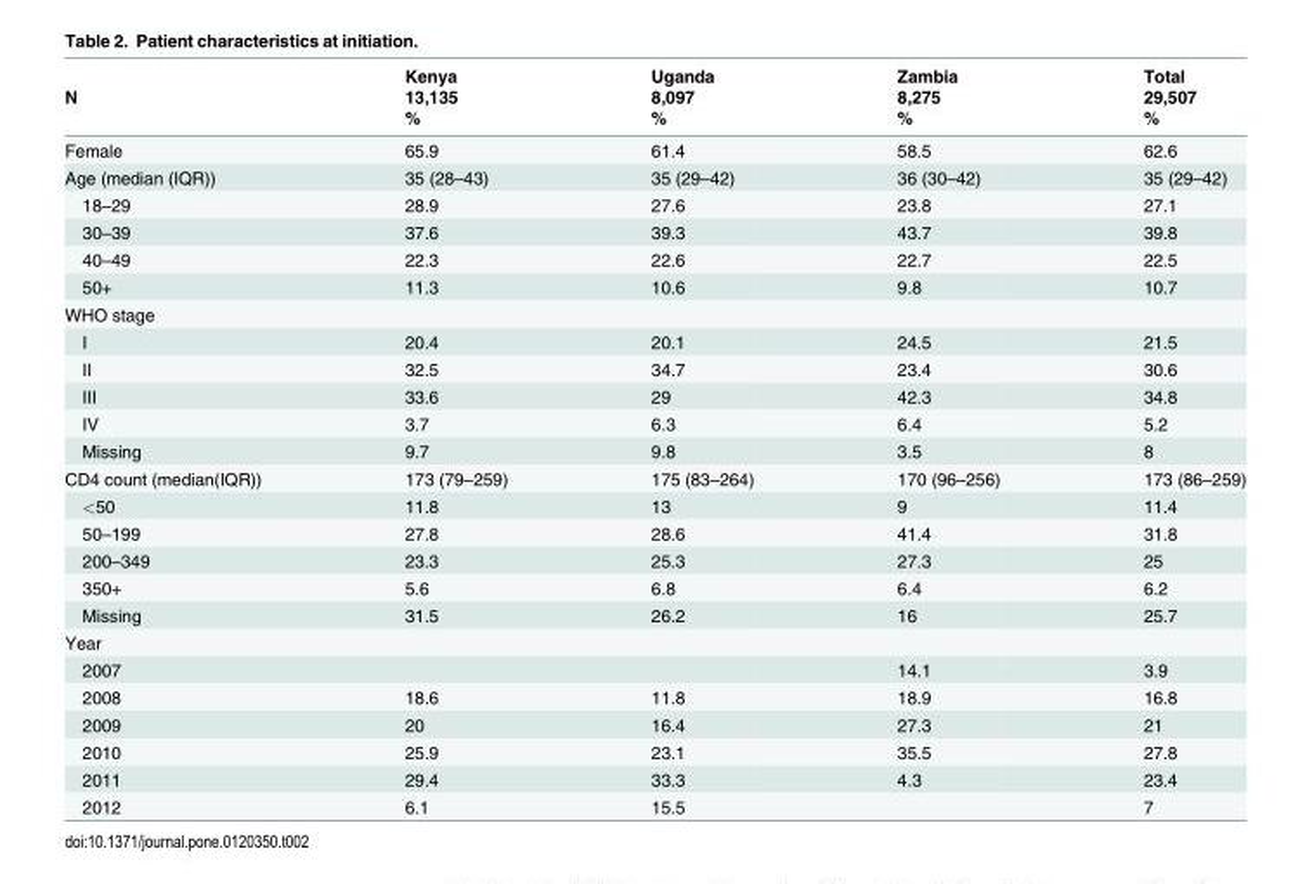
<table><thead><tr><td rowspan="3">N</td><td rowspan="3">Kenya 13,135 %</td><td rowspan="3">Uganda 8,097 %</td><td rowspan="3">Zambia 8,275 %</td><td rowspan="3">Total 29,507 %</td></tr><tr></tr><tr></tr></thead><tbody><tr><td>Female</td><td>65.9</td><td>61.4</td><td>58.5</td><td>62.6</td></tr><tr><td>Age (median (IQR))</td><td>35 (28–43)</td><td>35 (29–42)</td><td>36 (30–42)</td><td>35 (29–42)</td></tr><tr><td>18–29</td><td>28.9</td><td>27.6</td><td>23.8</td><td>27.1</td></tr><tr><td>30–39</td><td>37.6</td><td>39.3</td><td>43.7</td><td>39.8</td></tr><tr><td>40–49</td><td>22.3</td><td>22.6</td><td>22.7</td><td>22.5</td></tr><tr><td>50+</td><td>11.3</td><td>10.6</td><td>9.8</td><td>10.7</td></tr><tr><td colspan="5">WHO stage</td></tr><tr><td>I</td><td>20.4</td><td>20.1</td><td>24.5</td><td>21.5</td></tr><tr><td>II</td><td>32.5</td><td>34.7</td><td>23.4</td><td>30.6</td></tr><tr><td>III</td><td>33.6</td><td>29</td><td>42.3</td><td>34.8</td></tr><tr><td>IV</td><td>3.7</td><td>6.3</td><td>6.4</td><td>5.2</td></tr><tr><td>Missing</td><td>9.7</td><td>9.8</td><td>3.5</td><td>8</td></tr><tr><td>CD4 count (median(IQR))</td><td>173 (79–259)</td><td>175 (83–264)</td><td>170 (96–256)</td><td>173 (86–259)</td></tr><tr><td>&lt;50</td><td>11.8</td><td>13</td><td>9</td><td>11.4</td></tr><tr><td>50–199</td><td>27.8</td><td>28.6</td><td>41.4</td><td>31.8</td></tr><tr><td>200–349</td><td>23.3</td><td>25.3</td><td>27.3</td><td>25</td></tr><tr><td>350+</td><td>5.6</td><td>6.8</td><td>6.4</td><td>6.2</td></tr><tr><td>Missing</td><td>31.5</td><td>26.2</td><td>16</td><td>25.7</td></tr><tr><td colspan="5">Year</td></tr><tr><td>2007</td><td></td><td></td><td>14.1</td><td>3.9</td></tr><tr><td>2008</td><td>18.6</td><td>11.8</td><td>18.9</td><td>16.8</td></tr><tr><td>2009</td><td>20</td><td>16.4</td><td>27.3</td><td>21</td></tr><tr><td>2010</td><td>25.9</td><td>23.1</td><td>35.5</td><td>27.8</td></tr><tr><td>2011</td><td>29.4</td><td>33.3</td><td>4.3</td><td>23.4</td></tr><tr><td>2012</td><td>6.1</td><td>15.5</td><td></td><td>7</td></tr></tbody></table>